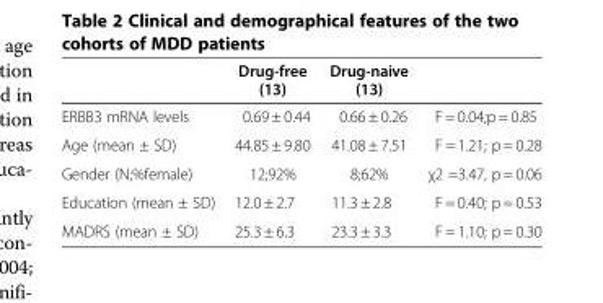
<table><thead><tr><td></td><td>Drug-free (13)</td><td>Drug-naive (13)</td><td></td></tr></thead><tbody><tr><td>ERBB3 mRNA levels</td><td>0.69 ± 0.44</td><td>0.66 ± 0.26</td><td>F = 0.04;p = 0.85</td></tr><tr><td>Age (mean ± SD)</td><td>44.85 ± 9.80</td><td>41.08 ± 7.51</td><td>F = 1.21; p = 0.28</td></tr><tr><td>Gender (N;%female)</td><td>12;92%</td><td>8;62%</td><td>χ2 =3.47, p = 0.06</td></tr><tr><td>Education (mean ± SD)</td><td>12.0 ± 2.7</td><td>11.3 ± 2.8</td><td>F = 0.40; p = 0.53</td></tr><tr><td>MADRS (mean ± SD)</td><td>25.3 ± 6.3</td><td>23.3 ± 3.3</td><td>F = 1.10; p = 0.30</td></tr></tbody></table>